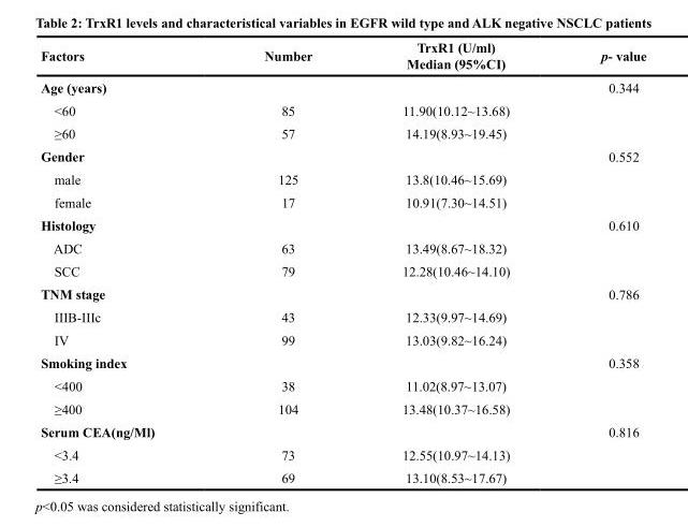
<table><thead><tr><td>Factors</td><td>Number</td><td>TrxR1 (U/ml) Median (95%CI)</td><td>p- value</td></tr></thead><tbody><tr><td>Age (years)</td><td></td><td></td><td>0.344</td></tr><tr><td>&lt;60</td><td>85</td><td>11.90(10.12~13.68)</td><td></td></tr><tr><td>≥60</td><td>57</td><td>14.19(8.93~19.45)</td><td></td></tr><tr><td>Gender</td><td></td><td></td><td>0.552</td></tr><tr><td>male</td><td>125</td><td>13.8(10.46~15.69)</td><td></td></tr><tr><td>female</td><td>17</td><td>10.91(7.30~14.51)</td><td></td></tr><tr><td>Histology</td><td></td><td></td><td>0.610</td></tr><tr><td>ADC</td><td>63</td><td>13.49(8.67~18.32)</td><td></td></tr><tr><td>SCC</td><td>79</td><td>12.28(10.46~14.10)</td><td></td></tr><tr><td>TNM stage</td><td></td><td></td><td>0.786</td></tr><tr><td>IIIB-IIIc</td><td>43</td><td>12.33(9.97~14.69)</td><td></td></tr><tr><td>IV</td><td>99</td><td>13.03(9.82~16.24)</td><td></td></tr><tr><td>Smoking index</td><td></td><td></td><td>0.358</td></tr><tr><td>&lt;400</td><td>38</td><td>11.02(8.97~13.07)</td><td></td></tr><tr><td>≥400</td><td>104</td><td>13.48(10.37~16.58)</td><td></td></tr><tr><td>Serum CEA(ng/Ml)</td><td></td><td></td><td>0.816</td></tr><tr><td>&lt;3.4</td><td>73</td><td>12.55(10.97~14.13)</td><td></td></tr><tr><td>≥3.4</td><td>69</td><td>13.10(8.53~17.67)</td><td></td></tr></tbody></table>